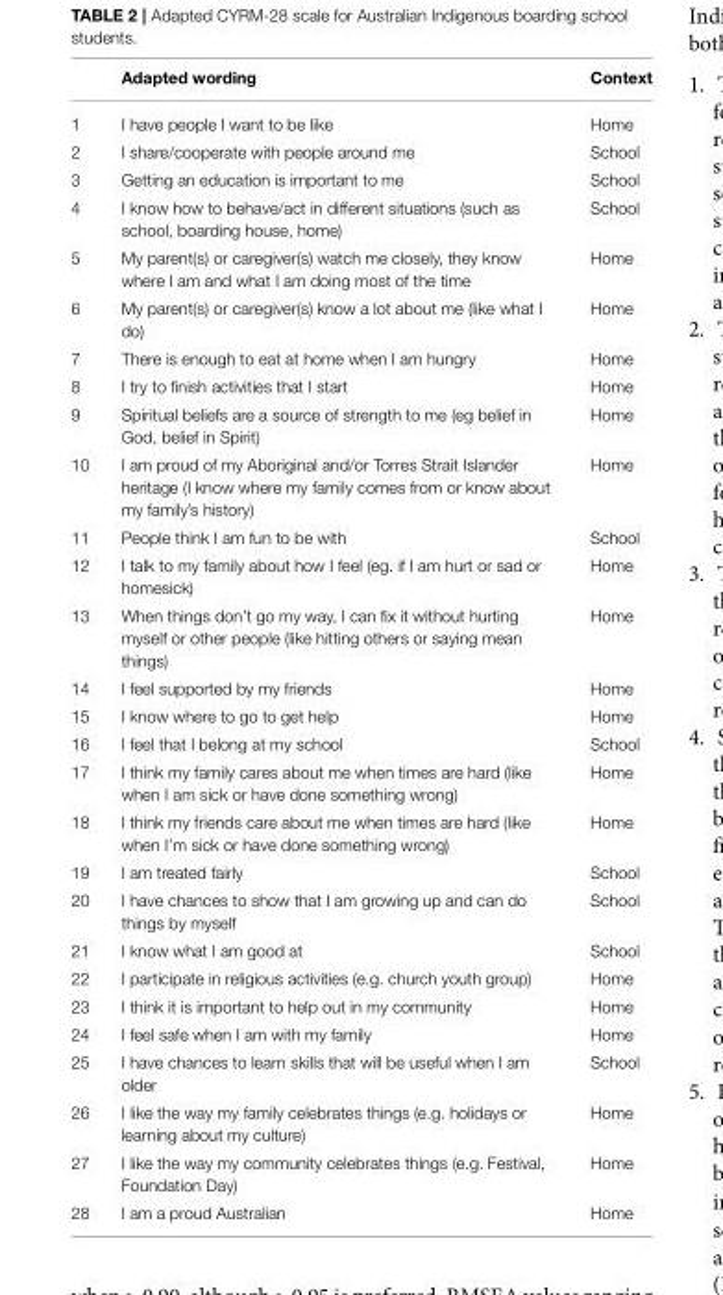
<table><thead><tr><td></td><td>Adapted wording</td><td>Context</td></tr></thead><tbody><tr><td>1</td><td>I have people I want to be like</td><td>Home</td></tr><tr><td>2</td><td>I share/cooperate with people around me</td><td>School</td></tr><tr><td>3</td><td>Getting an education is important to me</td><td>School</td></tr><tr><td>4</td><td>I know how to behave/act in different situations (such as school, boarding house, home)</td><td>School</td></tr><tr><td>5</td><td>My parent(s) or caregiver(s) watch me closely, they know where I am and what I am doing most of the time</td><td>Home</td></tr><tr><td>6</td><td>My parent(s) or caregiver(s) know a lot about me (like what I do)</td><td>Home</td></tr><tr><td>7</td><td>There is enough to eat at home when I am hungry</td><td>Home</td></tr><tr><td>8</td><td>I try to finish activities that I start</td><td>Home</td></tr><tr><td>9</td><td>Spiritual beliefs are a source of strength to me (eg belief in God, belief in Spirit)</td><td>Home</td></tr><tr><td>10</td><td>I am proud of my Aboriginal and/or Torres Strait Islander heritage (I know where my family comes from or know about my family’s history)</td><td>Home</td></tr><tr><td>11</td><td>People think I am fun to be with</td><td>School</td></tr><tr><td>12</td><td>I talk to my family about how I feel (eg. if I am hurt or sad or homesick)</td><td>Home</td></tr><tr><td>13</td><td>When things don’t go my way, I can fix it without hurting myself or other people (like hitting others or saying mean things)</td><td>Home</td></tr><tr><td>14</td><td>I feel supported by my friends</td><td>Home</td></tr><tr><td>15</td><td>I know where to go to get help</td><td>Home</td></tr><tr><td>16</td><td>I feel that I belong at my school</td><td>School</td></tr><tr><td>17</td><td>I think my family cares about me when times are hard (like when I am sick or have done something wrong)</td><td>Home</td></tr><tr><td>18</td><td>I think my friends care about me when times are hard (like when I’m sick or have done something wrong)</td><td>Home</td></tr><tr><td>19</td><td>I am treated fairly</td><td>School</td></tr><tr><td>20</td><td>I have chances to show that I am growing up and can do things by myself</td><td>School</td></tr><tr><td>21</td><td>I know what I am good at</td><td>School</td></tr><tr><td>22</td><td>I participate in religious activities (e.g. church youth group)</td><td>Home</td></tr><tr><td>23</td><td>I think it is important to help out in my community</td><td>Home</td></tr><tr><td>24</td><td>I feel safe when I am with my family</td><td>Home</td></tr><tr><td>25</td><td>I have chances to learn skills that will be useful when I am older</td><td>School</td></tr><tr><td>26</td><td>I like the way my family celebrates things (e.g. holidays or learning about my culture)</td><td>Home</td></tr><tr><td>27</td><td>I like the way my community celebrates things (e.g. Festival, Foundation Day)</td><td>Home</td></tr><tr><td>28</td><td>I am a proud Australian</td><td>Home</td></tr></tbody></table>